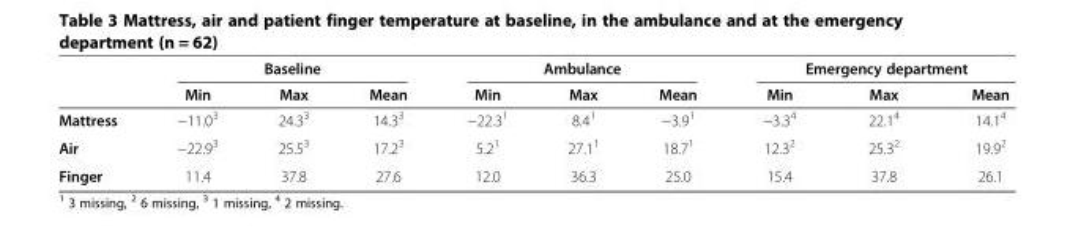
<table><thead><tr><td rowspan="2"></td><td colspan="3">Baseline</td><td colspan="3">Ambulance</td><td colspan="3">Emergency department</td></tr><tr><td>Min</td><td>Max</td><td>Mean</td><td>Min</td><td>Max</td><td>Mean</td><td>Min</td><td>Max</td><td>Mean</td></tr></thead><tbody><tr><td>Mattress</td><td>−11.0<sup>3</sup></td><td>24.3<sup>3</sup></td><td>14.3<sup>3</sup></td><td>−22.3<sup>1</sup></td><td>8.4<sup>1</sup></td><td>−3.9<sup>1</sup></td><td>−3.3<sup>4</sup></td><td>22.1<sup>4</sup></td><td>14.1<sup>4</sup></td></tr><tr><td>Air</td><td>−22.9<sup>3</sup></td><td>25.5<sup>3</sup></td><td>17.2<sup>3</sup></td><td>5.2<sup>1</sup></td><td>27.1<sup>1</sup></td><td>18.7<sup>1</sup></td><td>12.3<sup>2</sup></td><td>25.3<sup>2</sup></td><td>19.9<sup>2</sup></td></tr><tr><td>Finger</td><td>11.4</td><td>37.8</td><td>27.6</td><td>12.0</td><td>36.3</td><td>25.0</td><td>15.4</td><td>37.8</td><td>26.1</td></tr></tbody></table>